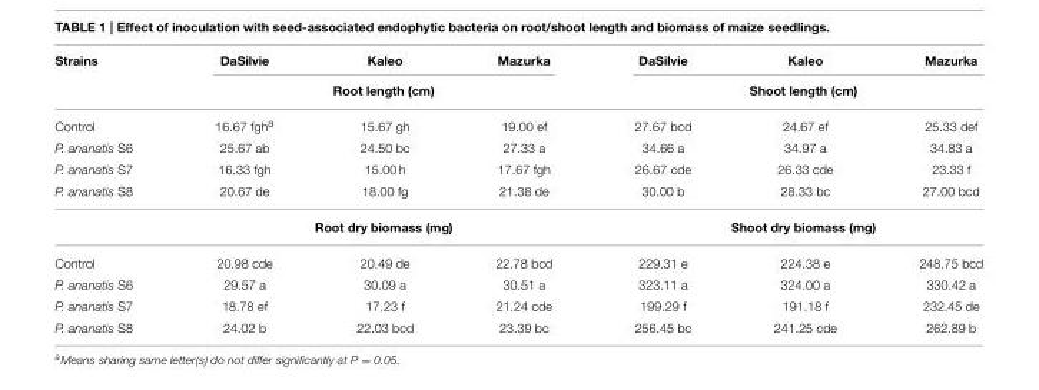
<table><thead><tr><td rowspan="2">Strains</td><td>DaSilvie</td><td>Kaleo</td><td>Mazurka</td><td>DaSilvie</td><td>Kaleo</td><td>Mazurka</td></tr><tr><td colspan="3">Root length (cm)</td><td colspan="3">Shoot length (cm)</td></tr></thead><tbody><tr><td>Control</td><td>16.67 fgh<sup>a</sup></td><td>15.67 gh</td><td>19.00 ef</td><td>27.67 bcd</td><td>24.67 ef</td><td>25.33 def</td></tr><tr><td>P. ananatis S6</td><td>25.67 ab</td><td>24.50 bc</td><td>27.33 a</td><td>34.66 a</td><td>34.97 a</td><td>34.83 a</td></tr><tr><td>P. ananatis S7</td><td>16.33 fgh</td><td>15.00 h</td><td>17.67 fgh</td><td>26.67 cde</td><td>26.33 cde</td><td>23.33 f</td></tr><tr><td rowspan="2">P. ananatis S8</td><td>20.67 de</td><td>18.00 fg</td><td>21.38 de</td><td>30.00 b</td><td>28.33 bc</td><td>27.00 bcd</td></tr><tr><td colspan="3">Root dry biomass (mg)</td><td colspan="3">Shoot dry biomass (mg)</td></tr><tr><td>Control</td><td>20.98 cde</td><td>20.49 de</td><td>22.78 bcd</td><td>229.31 e</td><td>224.38 e</td><td>248.75 bcd</td></tr><tr><td>P. ananatis S6</td><td>29.57 a</td><td>30.09 a</td><td>30.51 a</td><td>323.11 a</td><td>324.00 a</td><td>330.42 a</td></tr><tr><td>P. ananatis S7</td><td>18.78 ef</td><td>17.23 f</td><td>21.24 cde</td><td>199.29 f</td><td>191.18 f</td><td>232.45 de</td></tr><tr><td>P. ananatis S8</td><td>24.02 b</td><td>22.03 bcd</td><td>23.39 bc</td><td>256.45 bc</td><td>241.25 cde</td><td>262.89 b</td></tr></tbody></table>